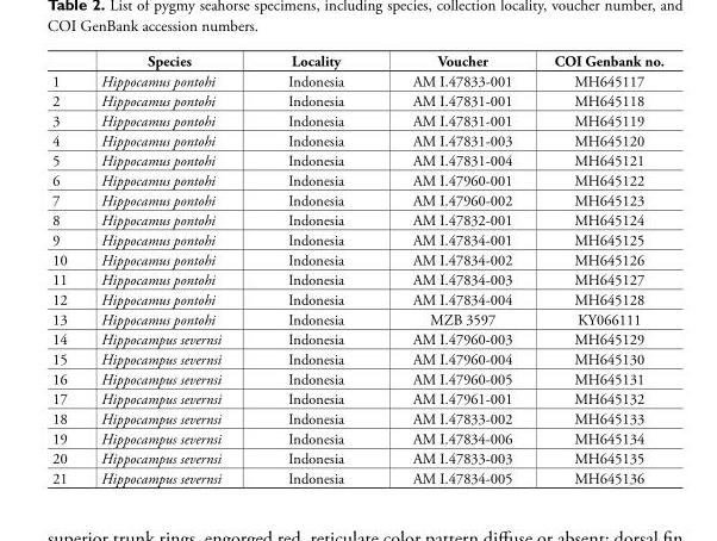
<table><thead><tr><td></td><td>Species</td><td>Locality</td><td>Voucher</td><td>COI Genbank no.</td></tr></thead><tbody><tr><td>1</td><td>Hippocamus pontohi</td><td>Indonesia</td><td>AM I.47833-001</td><td>MH645117</td></tr><tr><td>2</td><td>Hippocamus pontohi</td><td>Indonesia</td><td>AM I.47831-001</td><td>MH645118</td></tr><tr><td>3</td><td>Hippocamus pontohi</td><td>Indonesia</td><td>AM I.47831-001</td><td>MH645119</td></tr><tr><td>4</td><td>Hippocamus pontohi</td><td>Indonesia</td><td>AM I.47831-003</td><td>MH645120</td></tr><tr><td>5</td><td>Hippocamus pontohi</td><td>Indonesia</td><td>AM I.47831-004</td><td>MH645121</td></tr><tr><td>6</td><td>Hippocamus pontohi</td><td>Indonesia</td><td>AM I.47960-001</td><td>MH645122</td></tr><tr><td>7</td><td>Hippocamus pontohi</td><td>Indonesia</td><td>AM I.47960-002</td><td>MH645123</td></tr><tr><td>8</td><td>Hippocamus pontohi</td><td>Indonesia</td><td>AM I.47832-001</td><td>MH645124</td></tr><tr><td>9</td><td>Hippocamus pontohi</td><td>Indonesia</td><td>AM I.47834-001</td><td>MH645125</td></tr><tr><td>10</td><td>Hippocamus pontohi</td><td>Indonesia</td><td>AM I.47834-002</td><td>MH645126</td></tr><tr><td>11</td><td>Hippocamus pontohi</td><td>Indonesia</td><td>AM I.47834-003</td><td>MH645127</td></tr><tr><td>12</td><td>Hippocamus pontohi</td><td>Indonesia</td><td>AM I.47834-004</td><td>MH645128</td></tr><tr><td>13</td><td>Hippocamus pontohi</td><td>Indonesia</td><td>MZB 3597</td><td>KY066111</td></tr><tr><td>14</td><td>Hippocampus severnsi</td><td>Indonesia</td><td>AM I.47960-003</td><td>MH645129</td></tr><tr><td>15</td><td>Hippocampus severnsi</td><td>Indonesia</td><td>AM I.47960-004</td><td>MH645130</td></tr><tr><td>16</td><td>Hippocampus severnsi</td><td>Indonesia</td><td>AM I.47960-005</td><td>MH645131</td></tr><tr><td>17</td><td>Hippocampus severnsi</td><td>Indonesia</td><td>AM I.47961-001</td><td>MH645132</td></tr><tr><td>18</td><td>Hippocampus severnsi</td><td>Indonesia</td><td>AM I.47833-002</td><td>MH645133</td></tr><tr><td>19</td><td>Hippocampus severnsi</td><td>Indonesia</td><td>AM I.47834-006</td><td>MH645134</td></tr><tr><td>20</td><td>Hippocampus severnsi</td><td>Indonesia</td><td>AM I.47833-003</td><td>MH645135</td></tr><tr><td>21</td><td>Hippocampus severnsi</td><td>Indonesia</td><td>AM I.47834-005</td><td>MH645136</td></tr></tbody></table>